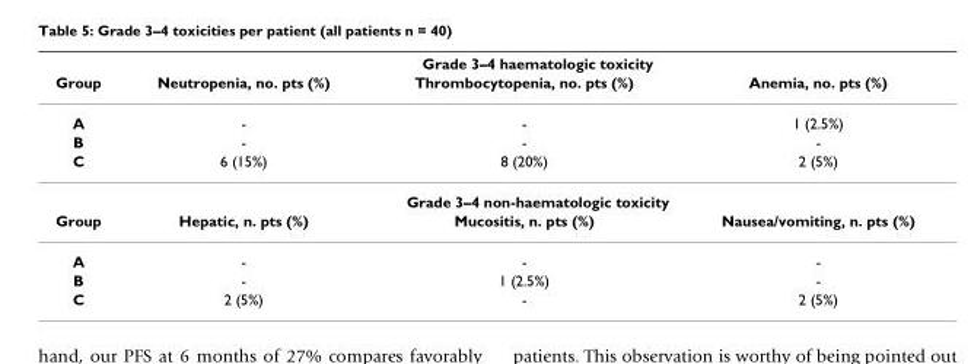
<table><thead><tr><td rowspan="2">Group</td><td colspan="3">Grade 3–4 haematologic toxicity</td></tr><tr><td>Neutropenia, no. pts (%)</td><td>Thrombocytopenia, no. pts (%)</td><td>Anemia, no. pts (%)</td></tr></thead><tbody><tr><td>A</td><td>-</td><td>-</td><td>1 (2.5%)</td></tr><tr><td>B</td><td>-</td><td>-</td><td>-</td></tr><tr><td rowspan="2">C</td><td>6 (15%)</td><td>8 (20%)</td><td>2 (5%)</td></tr><tr><td colspan="3">Grade 3–4 non-haematologic toxicity</td></tr><tr><td>Group</td><td>Hepatic, n. pts (%)</td><td>Mucositis, n. pts (%)</td><td>Nausea/vomiting, n. pts (%)</td></tr><tr><td>A</td><td>-</td><td>-</td><td>-</td></tr><tr><td>B</td><td>-</td><td>1 (2.5%)</td><td>-</td></tr><tr><td>C</td><td>2 (5%)</td><td>-</td><td>2 (5%)</td></tr></tbody></table>